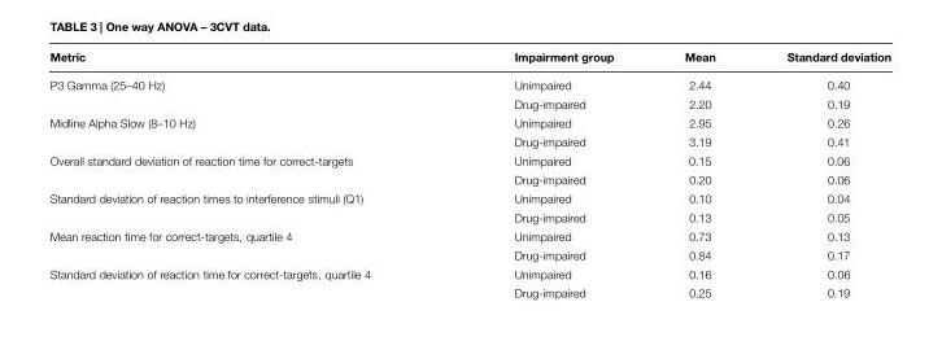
<table><thead><tr><td>Metric</td><td>Impairment group</td><td>Mean</td><td>Standard deviation</td></tr></thead><tbody><tr><td rowspan="2">P3 Gamma (25–40 Hz)</td><td>Unimpaired</td><td>2.44</td><td>0.40</td></tr><tr><td>Drug-impaired</td><td>2.20</td><td>0.19</td></tr><tr><td rowspan="2">Midline Alpha Slow (8–10 Hz)</td><td>Unimpaired</td><td>2.95</td><td>0.26</td></tr><tr><td>Drug-impaired</td><td>3.19</td><td>0.41</td></tr><tr><td rowspan="2">Overall standard deviation of reaction time for correct-targets</td><td>Unimpaired</td><td>0.15</td><td>0.06</td></tr><tr><td>Drug-impaired</td><td>0.20</td><td>0.06</td></tr><tr><td rowspan="2">Standard deviation of reaction times to interference stimuli (Q1)</td><td>Unimpaired</td><td>0.10</td><td>0.04</td></tr><tr><td>Drug-impaired</td><td>0.13</td><td>0.05</td></tr><tr><td rowspan="2">Mean reaction time for correct-targets, quartile 4</td><td>Unimpaired</td><td>0.73</td><td>0.13</td></tr><tr><td>Drug-impaired</td><td>0.84</td><td>0.17</td></tr><tr><td rowspan="2">Standard deviation of reaction time for correct-targets, quartile 4</td><td>Unimpaired</td><td>0.16</td><td>0.06</td></tr><tr><td>Drug-impaired</td><td>0.25</td><td>0.19</td></tr></tbody></table>